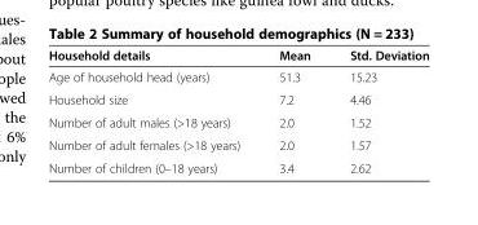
<table><thead><tr><td>Household details</td><td>Mean</td><td>Std. Deviation</td></tr></thead><tbody><tr><td>Age of household head (years)</td><td>51.3</td><td>15.23</td></tr><tr><td>Household size</td><td>7.2</td><td>4.46</td></tr><tr><td>Number of adult males (&gt;18 years)</td><td>2.0</td><td>1.52</td></tr><tr><td>Number of adult females (&gt;18 years)</td><td>2.0</td><td>1.57</td></tr><tr><td>Number of children (0–18 years)</td><td>3.4</td><td>2.62</td></tr></tbody></table>